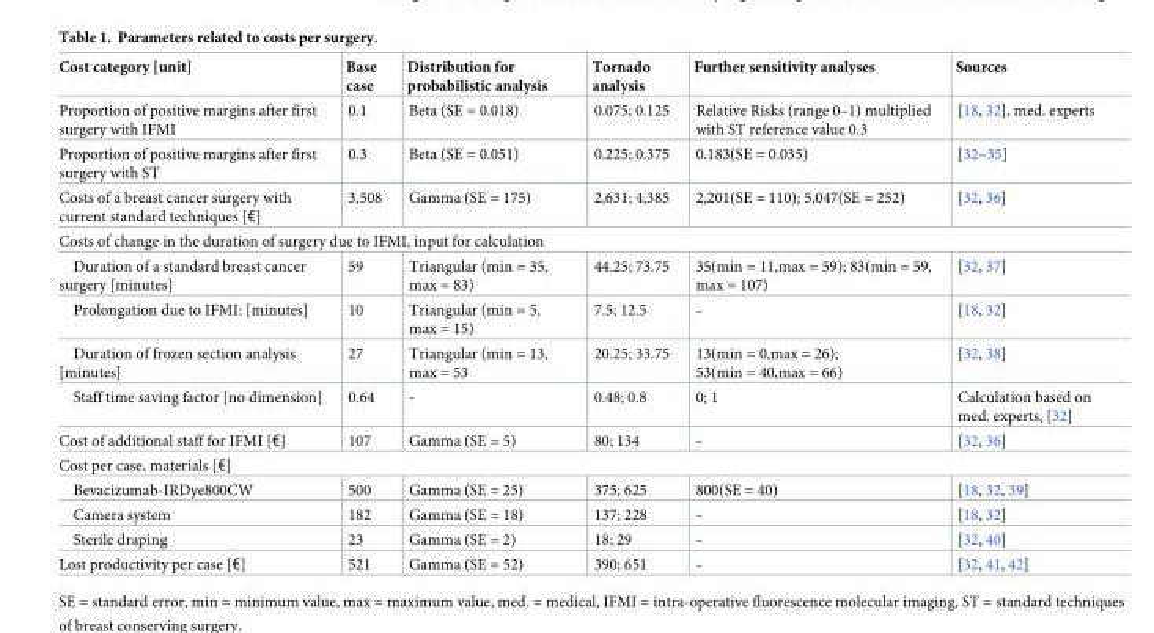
<table><thead><tr><td>Cost category [unit]</td><td>Base case</td><td>Distribution for probabilistic analysis</td><td>Tornado analysis</td><td>Further sensitivity analyses</td><td>Sources</td></tr></thead><tbody><tr><td>Proportion of positive margins after first surgery with IFMI</td><td>0.1</td><td>Beta (SE = 0.018)</td><td>0.075; 0.125</td><td>Relative Risks (range 0–1) multiplied with ST reference value 0.3</td><td>[18, 32], med. experts</td></tr><tr><td>Proportion of positive margins after first surgery with ST</td><td>0.3</td><td>Beta (SE = 0.051)</td><td>0.225; 0.375</td><td>0.183(SE = 0.035)</td><td>[32–35]</td></tr><tr><td>Costs of a breast cancer surgery with current standard techniques [€]</td><td>3,508</td><td>Gamma (SE = 175)</td><td>2,631; 4,385</td><td>2,201(SE = 110); 5,047(SE = 252)</td><td>[32, 36]</td></tr><tr><td colspan="6">Costs of change in the duration of surgery due to IFMI, input for calculation</td></tr><tr><td>Duration of a standard breast cancer surgery [minutes]</td><td>59</td><td>Triangular (min = 35, max = 83)</td><td>44.25; 73.75</td><td>35(min = 11,max = 59); 83(min = 59, max = 107)</td><td>[32, 37]</td></tr><tr><td>Prolongation due to IFMI: [minutes]</td><td>10</td><td>Triangular (min = 5, max = 15)</td><td>7.5; 12.5</td><td>-</td><td>[18, 32]</td></tr><tr><td>Duration of frozen section analysis [minutes]</td><td>27</td><td>Triangular (min = 13, max = 53</td><td>20.25; 33.75</td><td>13(min = 0,max = 26); 53(min = 40,max = 66)</td><td>[32, 38]</td></tr><tr><td>Staff time saving factor [no dimension]</td><td>0.64</td><td>-</td><td>0.48; 0.8</td><td>0; 1</td><td>Calculation based on med. experts, [32]</td></tr><tr><td>Cost of additional staff for IFMI [€]</td><td>107</td><td>Gamma (SE = 5)</td><td>80; 134</td><td>-</td><td>[32, 36]</td></tr><tr><td colspan="6">Cost per case, materials [€]</td></tr><tr><td>Bevacizumab-IRDye800CW</td><td>500</td><td>Gamma (SE = 25)</td><td>375; 625</td><td>800(SE = 40)</td><td>[18, 32, 39]</td></tr><tr><td>Camera system</td><td>182</td><td>Gamma (SE = 18)</td><td>137; 228</td><td>-</td><td>[18, 32]</td></tr><tr><td>Sterile draping</td><td>23</td><td>Gamma (SE = 2)</td><td>18; 29</td><td>-</td><td>[32, 40]</td></tr><tr><td>Lost productivity per case [€]</td><td>521</td><td>Gamma (SE = 52)</td><td>390; 651</td><td>-</td><td>[32, 41, 42]</td></tr></tbody></table>